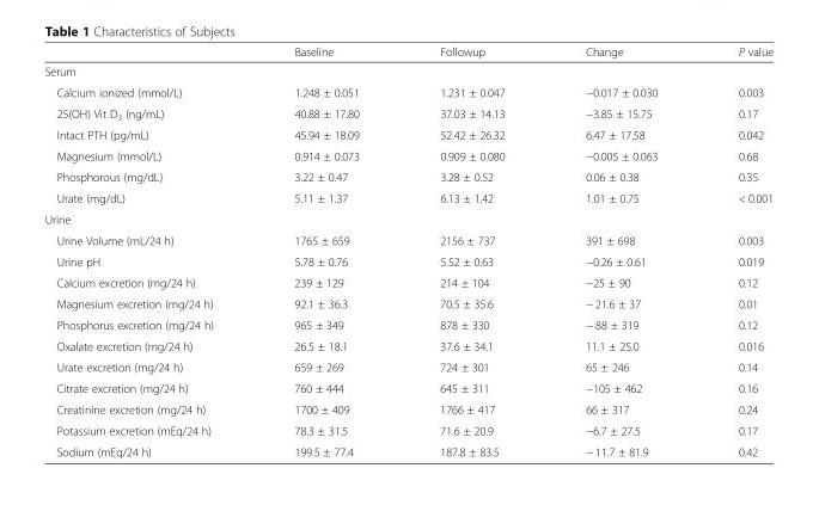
<table><thead><tr><td></td><td>Baseline</td><td>Followup</td><td>Change</td><td>P value</td></tr></thead><tbody><tr><td colspan="5">Serum</td></tr><tr><td>Calcium ionized (mmol/L)</td><td>1.248 ± 0.051</td><td>1.231 ± 0.047</td><td>−0.017 ± 0.030</td><td>0.003</td></tr><tr><td>25(OH) Vit D<sub>3</sub> (ng/mL)</td><td>40.88 ± 17.80</td><td>37.03 ± 14.13</td><td>−3.85 ± 15.75</td><td>0.17</td></tr><tr><td>Intact PTH (pg/mL)</td><td>45.94 ± 18.09</td><td>52.42 ± 26.32</td><td>6.47 ± 17.58</td><td>0.042</td></tr><tr><td>Magnesium (mmol/L)</td><td>0.914 ± 0.073</td><td>0.909 ± 0.080</td><td>−0.005 ± 0.063</td><td>0.68</td></tr><tr><td>Phosphorous (mg/dL)</td><td>3.22 ± 0.47</td><td>3.28 ± 0.52</td><td>0.06 ± 0.38</td><td>0.35</td></tr><tr><td>Urate (mg/dL)</td><td>5.11 ± 1.37</td><td>6.13 ± 1.42</td><td>1.01 ± 0.75</td><td>&lt; 0.001</td></tr><tr><td colspan="5">Urine</td></tr><tr><td>Urine Volume (mL/24 h)</td><td>1765 ± 659</td><td>2156 ± 737</td><td>391 ± 698</td><td>0.003</td></tr><tr><td>Urine pH</td><td>5.78 ± 0.76</td><td>5.52 ± 0.63</td><td>−0.26 ± 0.61</td><td>0.019</td></tr><tr><td>Calcium excretion (mg/24 h)</td><td>239 ± 129</td><td>214 ± 104</td><td>−25 ± 90</td><td>0.12</td></tr><tr><td>Magnesium excretion (mg/24 h)</td><td>92.1 ± 36.3</td><td>70.5 ± 35.6</td><td>− 21.6 ± 37</td><td>0.01</td></tr><tr><td>Phosphorus excretion (mg/24 h)</td><td>965 ± 349</td><td>878 ± 330</td><td>− 88 ± 319</td><td>0.12</td></tr><tr><td>Oxalate excretion (mg/24 h)</td><td>26.5 ± 18.1</td><td>37.6 ± 34.1</td><td>11.1 ± 25.0</td><td>0.016</td></tr><tr><td>Urate excretion (mg/24 h)</td><td>659 ± 269</td><td>724 ± 301</td><td>65 ± 246</td><td>0.14</td></tr><tr><td>Citrate excretion (mg/24 h)</td><td>760 ± 444</td><td>645 ± 311</td><td>−105 ± 462</td><td>0.16</td></tr><tr><td>Creatinine excretion (mg/24 h)</td><td>1700 ± 409</td><td>1766 ± 417</td><td>66 ± 317</td><td>0.24</td></tr><tr><td>Potassium excretion (mEq/24 h)</td><td>78.3 ± 31.5</td><td>71.6 ± 20.9</td><td>−6.7 ± 27.5</td><td>0.17</td></tr><tr><td>Sodium (mEq/24 h)</td><td>199.5 ± 77.4</td><td>187.8 ± 83.5</td><td>− 11.7 ± 81.9</td><td>0.42</td></tr></tbody></table>